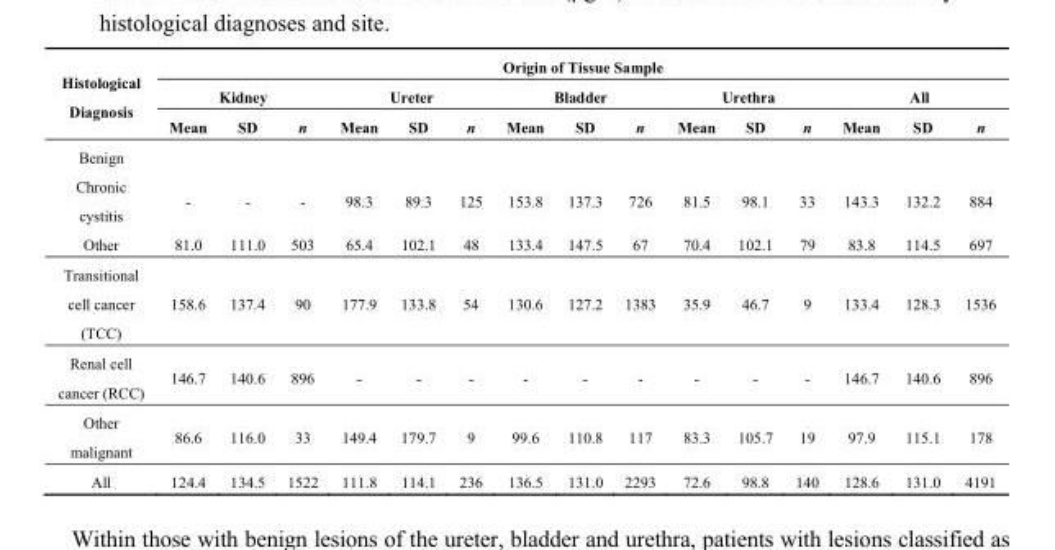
<table><thead><tr><td rowspan="3">Histological Diagnosis</td><td colspan="15">Origin of Tissue Sample</td></tr><tr><td colspan="3">Kidney</td><td colspan="3">Ureter</td><td colspan="3">Bladder</td><td colspan="3">Urethra</td><td colspan="3">All</td></tr><tr><td>Mean</td><td>SD</td><td>n</td><td>Mean</td><td>SD</td><td>n</td><td>Mean</td><td>SD</td><td>n</td><td>Mean</td><td>SD</td><td>n</td><td>Mean</td><td>SD</td><td>n</td></tr></thead><tbody><tr><td colspan="16">Benign</td></tr><tr><td>Chronic cystitis</td><td>-</td><td>-</td><td>-</td><td>98.3</td><td>89.3</td><td>125</td><td>153.8</td><td>137.3</td><td>726</td><td>81.5</td><td>98.1</td><td>33</td><td>143.3</td><td>132.2</td><td>884</td></tr><tr><td>Other</td><td>81.0</td><td>111.0</td><td>503</td><td>65.4</td><td>102.1</td><td>48</td><td>133.4</td><td>147.5</td><td>67</td><td>70.4</td><td>102.1</td><td>79</td><td>83.8</td><td>114.5</td><td>697</td></tr><tr><td>Transitional cell cancer (TCC)</td><td>158.6</td><td>137.4</td><td>90</td><td>177.9</td><td>133.8</td><td>54</td><td>130.6</td><td>127.2</td><td>1383</td><td>35.9</td><td>46.7</td><td>9</td><td>133.4</td><td>128.3</td><td>1536</td></tr><tr><td>Renal cell cancer (RCC)</td><td>146.7</td><td>140.6</td><td>896</td><td>-</td><td>-</td><td>-</td><td>-</td><td>-</td><td>-</td><td>-</td><td>-</td><td>-</td><td>146.7</td><td>140.6</td><td>896</td></tr><tr><td>Other malignant</td><td>86.6</td><td>116.0</td><td>33</td><td>149.4</td><td>179.7</td><td>9</td><td>99.6</td><td>110.8</td><td>117</td><td>83.3</td><td>105.7</td><td>19</td><td>97.9</td><td>115.1</td><td>178</td></tr><tr><td>All</td><td>124.4</td><td>134.5</td><td>1522</td><td>111.8</td><td>114.1</td><td>236</td><td>136.5</td><td>131.0</td><td>2293</td><td>72.6</td><td>98.8</td><td>140</td><td>128.6</td><td>131.0</td><td>4191</td></tr></tbody></table>